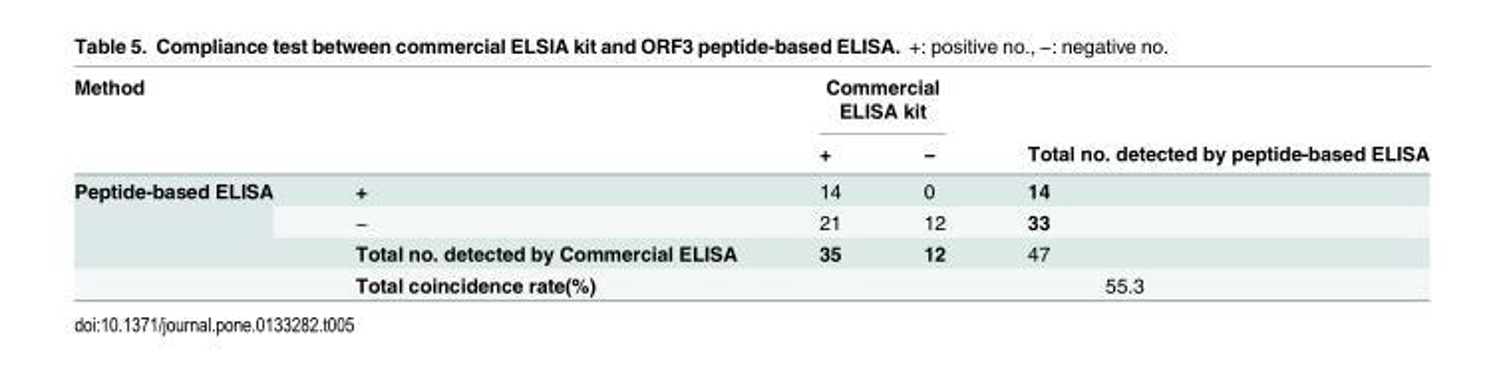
<table><thead><tr><td rowspan="2">Method</td><td rowspan="2"></td><td colspan="2">Commercial ELISA kit</td><td rowspan="2">Total no. detected by peptide-based ELISA</td></tr><tr><td>+</td><td>−</td></tr></thead><tbody><tr><td rowspan="4">Peptide-based ELISA</td><td>+</td><td>14</td><td>0</td><td>14</td></tr><tr><td>−</td><td>21</td><td>12</td><td>33</td></tr><tr><td>Total no. detected by Commercial ELISA</td><td>35</td><td>12</td><td>47</td></tr><tr><td>Total coincidence rate(%)</td><td colspan="3">55.3</td></tr></tbody></table>